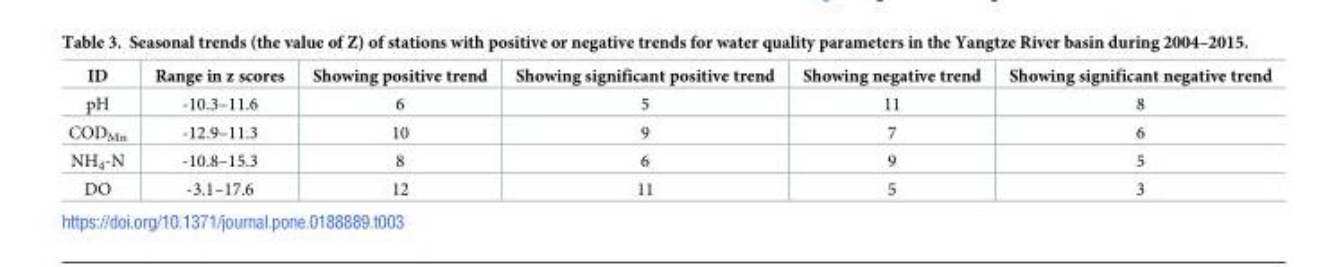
<table><thead><tr><td>ID</td><td>Range in z scores</td><td>Showing positive trend</td><td>Showing significant positive trend</td><td>Showing negative trend</td><td>Showing significant negative trend</td></tr></thead><tbody><tr><td>pH</td><td>-10.3–11.6</td><td>6</td><td>5</td><td>11</td><td>8</td></tr><tr><td>COD<sub>Mn</sub></td><td>-12.9–11.3</td><td>10</td><td>9</td><td>7</td><td>6</td></tr><tr><td>NH<sub>4</sub>-N</td><td>-10.8–15.3</td><td>8</td><td>6</td><td>9</td><td>5</td></tr><tr><td>DO</td><td>-3.1–17.6</td><td>12</td><td>11</td><td>5</td><td>3</td></tr></tbody></table>